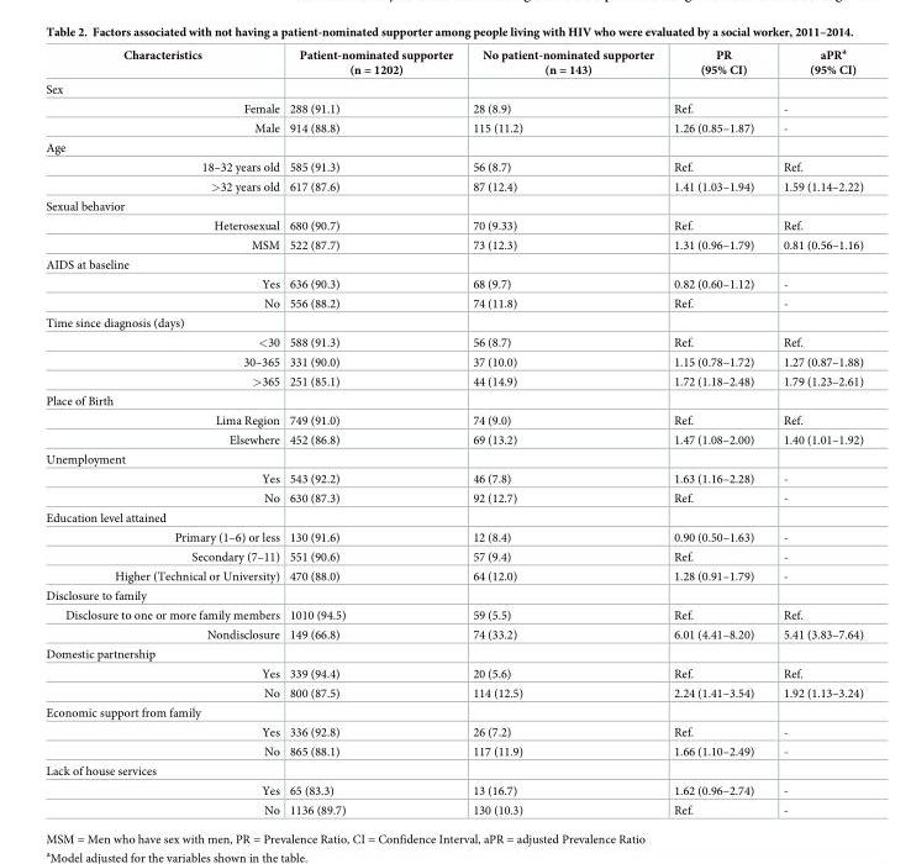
<table><thead><tr><td>Characteristics</td><td>Patient-nominated supporter (n = 1202)</td><td>No patient-nominated supporter (n = 143)</td><td>PR (95% CI)</td><td>aPR<sup>a</sup> (95% CI)</td></tr></thead><tbody><tr><td colspan="5">Sex</td></tr><tr><td>Female</td><td>288 (91.1)</td><td>28 (8.9)</td><td>Ref.</td><td>-</td></tr><tr><td>Male</td><td>914 (88.8)</td><td>115 (11.2)</td><td>1.26 (0.85–1.87)</td><td>-</td></tr><tr><td colspan="5">Age</td></tr><tr><td>18–32 years old</td><td>585 (91.3)</td><td>56 (8.7)</td><td>Ref.</td><td>Ref.</td></tr><tr><td>&gt;32 years old</td><td>617 (87.6)</td><td>87 (12.4)</td><td>1.41 (1.03–1.94)</td><td>1.59 (1.14–2.22)</td></tr><tr><td colspan="5">Sexual behavior</td></tr><tr><td>Heterosexual</td><td>680 (90.7)</td><td>70 (9.33)</td><td>Ref.</td><td>Ref.</td></tr><tr><td>MSM</td><td>522 (87.7)</td><td>73 (12.3)</td><td>1.31 (0.96–1.79)</td><td>0.81 (0.56–1.16)</td></tr><tr><td colspan="5">AIDS at baseline</td></tr><tr><td>Yes</td><td>636 (90.3)</td><td>68 (9.7)</td><td>0.82 (0.60–1.12)</td><td>-</td></tr><tr><td>No</td><td>556 (88.2)</td><td>74 (11.8)</td><td>Ref.</td><td>-</td></tr><tr><td colspan="5">Time since diagnosis (days)</td></tr><tr><td>&lt;30</td><td>588 (91.3)</td><td>56 (8.7)</td><td>Ref.</td><td>Ref.</td></tr><tr><td>30–365</td><td>331 (90.0)</td><td>37 (10.0)</td><td>1.15 (0.78–1.72)</td><td>1.27 (0.87–1.88)</td></tr><tr><td>&gt;365</td><td>251 (85.1)</td><td>44 (14.9)</td><td>1.72 (1.18–2.48)</td><td>1.79 (1.23–2.61)</td></tr><tr><td colspan="5">Place of Birth</td></tr><tr><td>Lima Region</td><td>749 (91.0)</td><td>74 (9.0)</td><td>Ref.</td><td>Ref.</td></tr><tr><td>Elsewhere</td><td>452 (86.8)</td><td>69 (13.2)</td><td>1.47 (1.08–2.00)</td><td>1.40 (1.01–1.92)</td></tr><tr><td colspan="5">Unemployment</td></tr><tr><td>Yes</td><td>543 (92.2)</td><td>46 (7.8)</td><td>1.63 (1.16–2.28)</td><td>-</td></tr><tr><td>No</td><td>630 (87.3)</td><td>92 (12.7)</td><td>Ref.</td><td>-</td></tr><tr><td colspan="5">Education level attained</td></tr><tr><td>Primary (1–6) or less</td><td>130 (91.6)</td><td>12 (8.4)</td><td>0.90 (0.50–1.63)</td><td>-</td></tr><tr><td>Secondary (7–11)</td><td>551 (90.6)</td><td>57 (9.4)</td><td>Ref.</td><td>-</td></tr><tr><td>Higher (Technical or University)</td><td>470 (88.0)</td><td>64 (12.0)</td><td>1.28 (0.91–1.79)</td><td>-</td></tr><tr><td colspan="5">Disclosure to family</td></tr><tr><td>Disclosure to one or more family members</td><td>1010 (94.5)</td><td>59 (5.5)</td><td>Ref.</td><td>Ref.</td></tr><tr><td>Nondisclosure</td><td>149 (66.8)</td><td>74 (33.2)</td><td>6.01 (4.41–8.20)</td><td>5.41 (3.83–7.64)</td></tr><tr><td colspan="5">Domestic partnership</td></tr><tr><td>Yes</td><td>339 (94.4)</td><td>20 (5.6)</td><td>Ref.</td><td>Ref.</td></tr><tr><td>No</td><td>800 (87.5)</td><td>114 (12.5)</td><td>2.24 (1.41–3.54)</td><td>1.92 (1.13–3.24)</td></tr><tr><td colspan="5">Economic support from family</td></tr><tr><td>Yes</td><td>336 (92.8)</td><td>26 (7.2)</td><td>Ref.</td><td>-</td></tr><tr><td>No</td><td>865 (88.1)</td><td>117 (11.9)</td><td>1.66 (1.10–2.49)</td><td>-</td></tr><tr><td colspan="5">Lack of house services</td></tr><tr><td>Yes</td><td>65 (83.3)</td><td>13 (16.7)</td><td>1.62 (0.96–2.74)</td><td>-</td></tr><tr><td>No</td><td>1136 (89.7)</td><td>130 (10.3)</td><td>Ref.</td><td>-</td></tr></tbody></table>